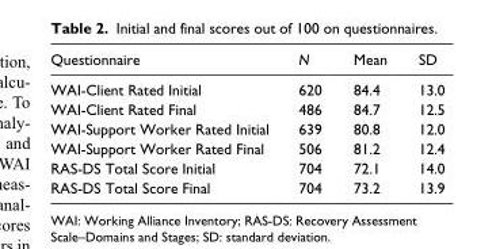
<table><thead><tr><td>Questionnaire</td><td>N</td><td>Mean</td><td>SD</td></tr></thead><tbody><tr><td>WAI-Client Rated Initial</td><td>620</td><td>84.4</td><td>13.0</td></tr><tr><td>WAI-Client Rated Final</td><td>486</td><td>84.7</td><td>12.5</td></tr><tr><td>WAI-Support Worker Rated Initial</td><td>639</td><td>80.8</td><td>12.0</td></tr><tr><td>WAI-Support Worker Rated Final</td><td>506</td><td>81.2</td><td>12.4</td></tr><tr><td>RAS-DS Total Score Initial</td><td>704</td><td>72.1</td><td>14.0</td></tr><tr><td>RAS-DS Total Score Final</td><td>704</td><td>73.2</td><td>13.9</td></tr></tbody></table>